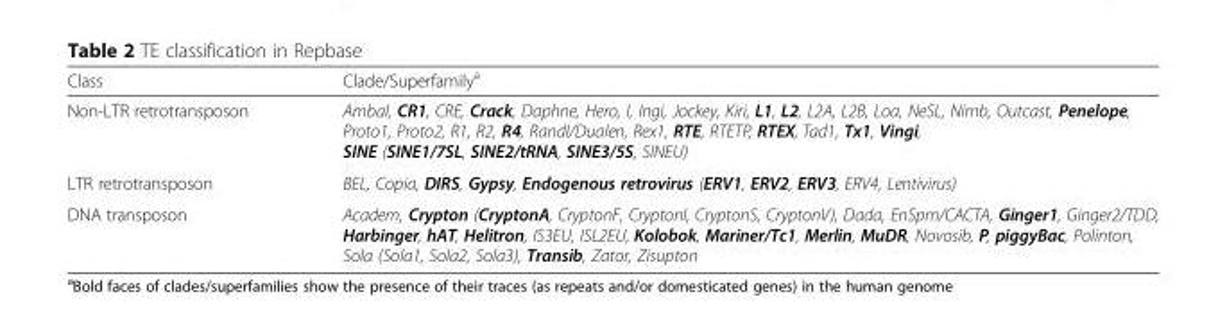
<table><thead><tr><td>Class</td><td>Clade/Superfamily<sup>a</sup></td></tr></thead><tbody><tr><td>Non-LTR retrotransposon</td><td>Ambal, CR1, CRE, Crack, Daphne, Hero, I, Ingi, Jockey, Kiri, L1, L2, L2A, L2B, Loa, NeSL, Nimb, Outcast, Penelope, Proto1, Proto2, R1, R2, R4, RandI/Dualen, Rex1, RTE, RTETP, RTEX, Tad1, Tx1, Vingi, SINE (SINE1/7SL, SINE2/tRNA, SINE3/5S, SINEU)</td></tr><tr><td>LTR retrotransposon</td><td>BEL, Copia, DIRS, Gypsy, Endogenous retrovirus (ERV1, ERV2, ERV3, ERV4, Lentivirus)</td></tr><tr><td>DNA transposon</td><td>Academ, Crypton (CryptonA, CryptonF, CryptonI, CryptonS, CryptonV), Dada, EnSpm/CACTA, Ginger1, Ginger2/TDD, Harbinger, hAT, Helitron, IS3EU, ISL2EU, Kolobok, Mariner/Tc1, Merlin, MuDR, Novosib, P, piggyBac, Polinton, Sola (Sola1, Sola2, Sola3), Transib, Zator, Zisupton</td></tr></tbody></table>